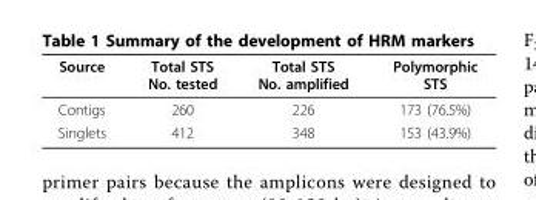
<table><thead><tr><td>Source</td><td>Total STS No. tested</td><td>Total STS No. amplified</td><td>Polymorphic STS</td></tr></thead><tbody><tr><td>Contigs</td><td>260</td><td>226</td><td>173 (76.5%)</td></tr><tr><td>Singlets</td><td>412</td><td>348</td><td>153 (43.9%)</td></tr></tbody></table>